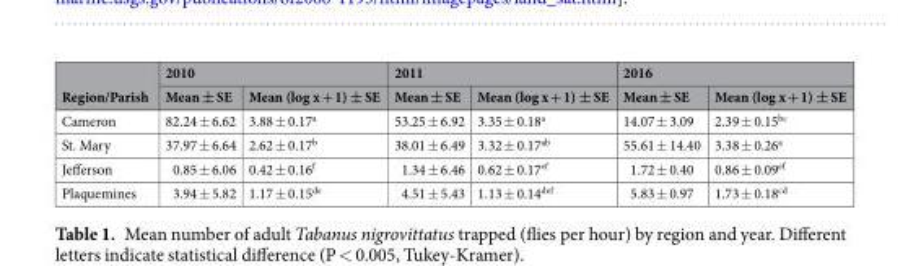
<table><thead><tr><td rowspan="2">Region/Parish</td><td colspan="2">2010</td><td colspan="2">2011</td><td colspan="2">2016</td></tr><tr><td>Mean ± SE</td><td>Mean (log x + 1) ± SE</td><td>Mean ± SE</td><td>Mean (log x + 1) ± SE</td><td>Mean ± SE</td><td>Mean (log x + 1) ± SE</td></tr></thead><tbody><tr><td>Cameron</td><td>82.24 ± 6.62</td><td>3.88 ± 0.17<sup>a</sup></td><td>53.25 ± 6.92</td><td>3.35 ± 0.18<sup>a</sup></td><td>14.07 ± 3.09</td><td>2.39 ± 0.15<sup>bc</sup></td></tr><tr><td>St. Mary</td><td>37.97 ± 6.64</td><td>2.62 ± 0.17<sup>b</sup></td><td>38.01 ± 6.49</td><td>3.32 ± 0.17<sup>ab</sup></td><td>55.61 ± 14.40</td><td>3.38 ± 0.26<sup>a</sup></td></tr><tr><td>Jefferson</td><td>0.85 ± 6.06</td><td>0.42 ± 0.16<sup>f</sup></td><td>1.34 ± 6.46</td><td>0.62 ± 0.17<sup>ef</sup></td><td>1.72 ± 0.40</td><td>0.86 ± 0.09<sup>ef</sup></td></tr><tr><td>Plaquemines</td><td>3.94 ± 5.82</td><td>1.17 ± 0.15<sup>de</sup></td><td>4.51 ± 5.43</td><td>1.13 ± 0.14<sup>def</sup></td><td>5.83 ± 0.97</td><td>1.73 ± 0.18<sup>cd</sup></td></tr></tbody></table>